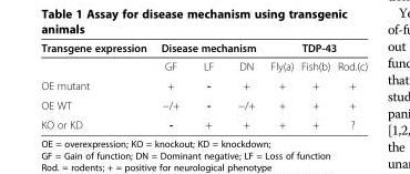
<table><thead><tr><td rowspan="2">Transgene expression</td><td colspan="3">Disease mechanism</td><td colspan="3">TDP-43</td></tr><tr><td>GF</td><td>LF</td><td>DN</td><td>Fly(a)</td><td>Fish(b)</td><td>Rod.(c)</td></tr></thead><tbody><tr><td>OE mutant</td><td>+</td><td>-</td><td>+</td><td>+</td><td>+</td><td>+</td></tr><tr><td>OE WT</td><td>−/+</td><td>-</td><td>−/+</td><td>+</td><td>+</td><td>+</td></tr><tr><td>KO or KD</td><td>-</td><td>+</td><td>+</td><td>+</td><td>+</td><td>?</td></tr></tbody></table>